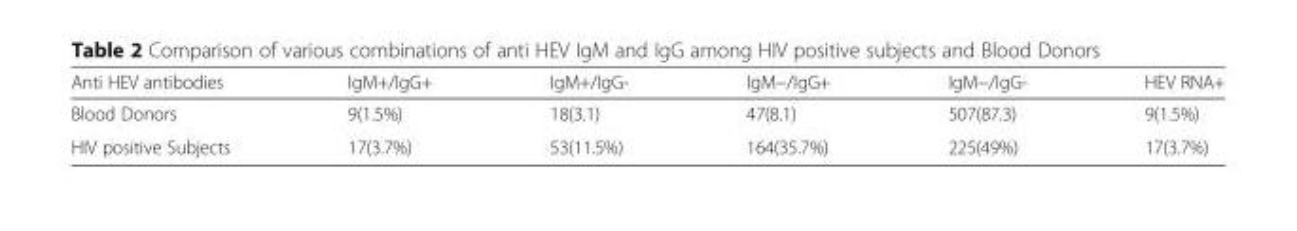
<table><thead><tr><td>Anti HEV antibodies</td><td>IgM+/IgG+</td><td>IgM+/IgG-</td><td>IgM−/IgG+</td><td>IgM−/IgG-</td><td>HEV RNA+</td></tr></thead><tbody><tr><td>Blood Donors</td><td>9(1.5%)</td><td>18(3.1)</td><td>47(8.1)</td><td>507(87.3)</td><td>9(1.5%)</td></tr><tr><td>HIV positive Subjects</td><td>17(3.7%)</td><td>53(11.5%)</td><td>164(35.7%)</td><td>225(49%)</td><td>17(3.7%)</td></tr></tbody></table>